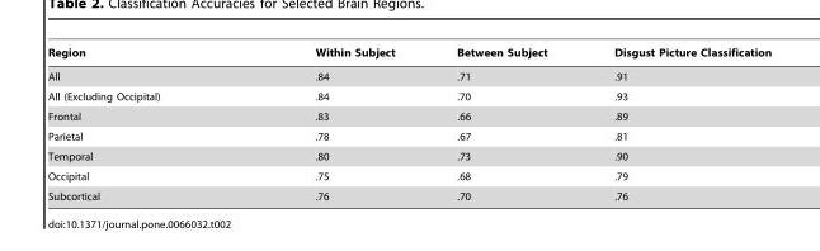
<table><thead><tr><td>Region</td><td>Within Subject</td><td>Between Subject</td><td>Disgust Picture Classification</td></tr></thead><tbody><tr><td>All</td><td>.84</td><td>.71</td><td>.91</td></tr><tr><td>All (Excluding Occipital)</td><td>.84</td><td>.70</td><td>.93</td></tr><tr><td>Frontal</td><td>.83</td><td>.66</td><td>.89</td></tr><tr><td>Parietal</td><td>.78</td><td>.67</td><td>.81</td></tr><tr><td>Temporal</td><td>.80</td><td>.73</td><td>.90</td></tr><tr><td>Occipital</td><td>.75</td><td>.68</td><td>.79</td></tr><tr><td>Subcortical</td><td>.76</td><td>.70</td><td>.76</td></tr></tbody></table>